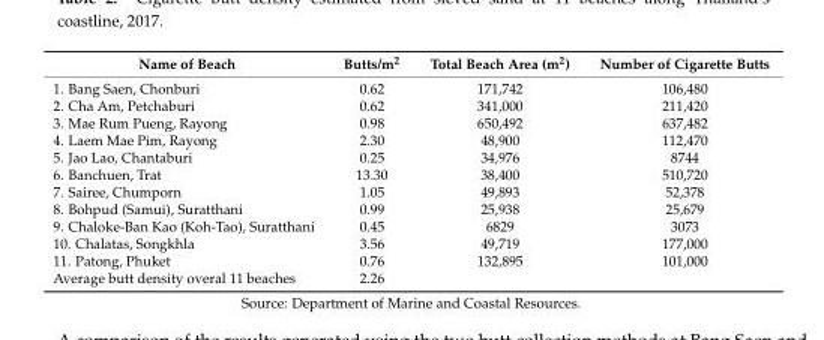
<table><thead><tr><td>Name of Beach</td><td>Butts/m<sup>2</sup></td><td>Total Beach Area (m<sup>2</sup>)</td><td>Number of Cigarette Butts</td></tr></thead><tbody><tr><td>1. Bang Saen, Chonburi</td><td>0.62</td><td>171,742</td><td>106,480</td></tr><tr><td>2. Cha Am, Petchaburi</td><td>0.62</td><td>341,000</td><td>211,420</td></tr><tr><td>3. Mae Rum Pueng, Rayong</td><td>0.98</td><td>650,492</td><td>637,482</td></tr><tr><td>4. Laem Mae Pim, Rayong</td><td>2.30</td><td>48,900</td><td>112,470</td></tr><tr><td>5. Jao Lao, Chantaburi</td><td>0.25</td><td>34,976</td><td>8744</td></tr><tr><td>6. Banchuen, Trat</td><td>13.30</td><td>38,400</td><td>510,720</td></tr><tr><td>7. Sairee, Chumporn</td><td>1.05</td><td>49,893</td><td>52,378</td></tr><tr><td>8. Bohpud (Samui), Suratthani</td><td>0.99</td><td>25,938</td><td>25,679</td></tr><tr><td>9. Chaloke-Ban Kao (Koh-Tao), Suratthani</td><td>0.45</td><td>6829</td><td>3073</td></tr><tr><td>10. Chalatas, Songkhla</td><td>3.56</td><td>49,719</td><td>177,000</td></tr><tr><td>11. Patong, Phuket</td><td>0.76</td><td>132,895</td><td>101,000</td></tr><tr><td>Average butt density overal 11 beaches</td><td>2.26</td><td></td><td></td></tr></tbody></table>